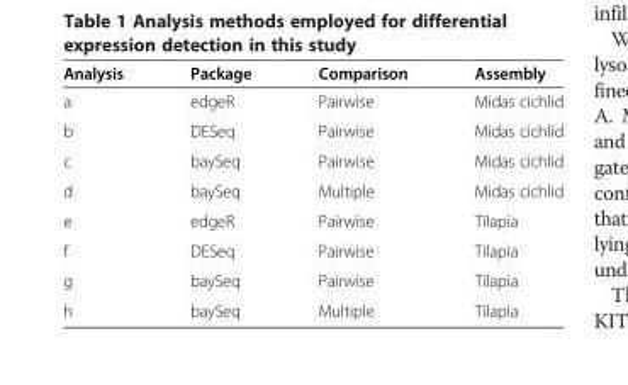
<table><thead><tr><td>Analysis</td><td>Package</td><td>Comparison</td><td>Assembly</td></tr></thead><tbody><tr><td>a</td><td>edgeR</td><td>Pairwise</td><td>Midas cichlid</td></tr><tr><td>b</td><td>DESeq</td><td>Pairwise</td><td>Midas cichlid</td></tr><tr><td>c</td><td>baySeq</td><td>Pairwise</td><td>Midas cichlid</td></tr><tr><td>d</td><td>baySeq</td><td>Multiple</td><td>Midas cichlid</td></tr><tr><td>e</td><td>edgeR</td><td>Pairwise</td><td>Tilapia</td></tr><tr><td>f</td><td>DESeq</td><td>Pairwise</td><td>Tilapia</td></tr><tr><td>g</td><td>baySeq</td><td>Pairwise</td><td>Tilapia</td></tr><tr><td>h</td><td>baySeq</td><td>Multiple</td><td>Tilapia</td></tr></tbody></table>